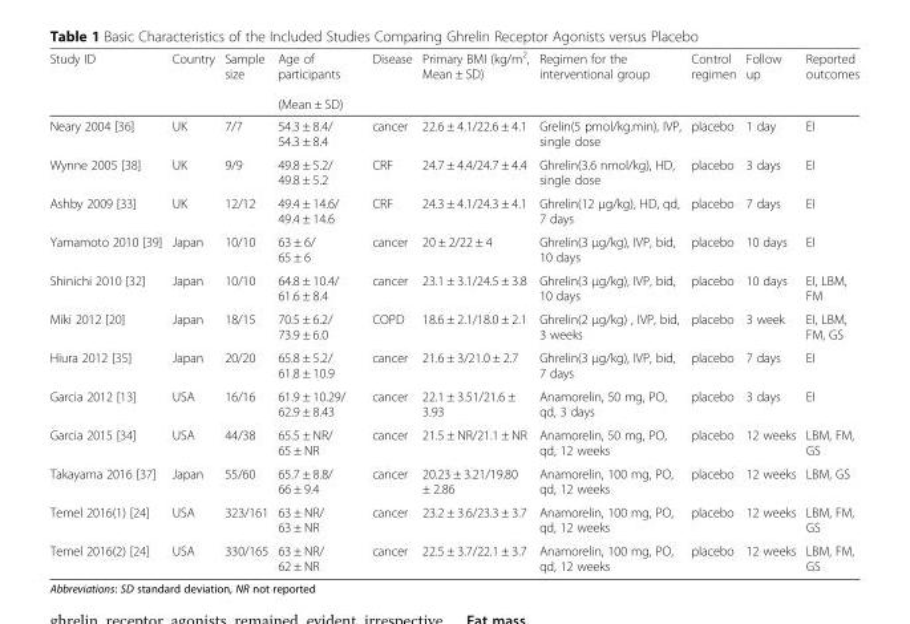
<table><thead><tr><td>Study ID</td><td>Country</td><td>Sample size</td><td>Age of participants (Mean ± SD)</td><td>Disease</td><td>Primary BMI (kg/m<sup>2</sup>, Mean ± SD)</td><td>Regimen for the interventional group</td><td>Control regimen</td><td>Follow up</td><td>Reported outcomes</td></tr></thead><tbody><tr><td>Neary 2004 [36]</td><td>UK</td><td>7/7</td><td>54.3 ± 8.4/ 54.3 ± 8.4</td><td>cancer</td><td>22.6 ± 4.1/22.6 ± 4.1</td><td>Grelin(5 pmol/kg.min), IVP, single dose</td><td>placebo</td><td>1 day</td><td>EI</td></tr><tr><td>Wynne 2005 [38]</td><td>UK</td><td>9/9</td><td>49.8 ± 5.2/ 49.8 ± 5.2</td><td>CRF</td><td>24.7 ± 4.4/24.7 ± 4.4</td><td>Ghrelin(3.6 nmol/kg), HD, single dose</td><td>placebo</td><td>3 days</td><td>EI</td></tr><tr><td>Ashby 2009 [33]</td><td>UK</td><td>12/12</td><td>49.4 ± 14.6/ 49.4 ± 14.6</td><td>CRF</td><td>24.3 ± 4.1/24.3 ± 4.1</td><td>Ghrelin(12 μg/kg), HD, qd, 7 days</td><td>placebo</td><td>7 days</td><td>EI</td></tr><tr><td>Yamamoto 2010 [39]</td><td>Japan</td><td>10/10</td><td>63 ± 6/ 65 ± 6</td><td>cancer</td><td>20 ± 2/22 ± 4</td><td>Ghrelin(3 μg/kg), IVP, bid, 10 days</td><td>placebo</td><td>10 days</td><td>EI</td></tr><tr><td>Shinichi 2010 [32]</td><td>Japan</td><td>10/10</td><td>64.8 ± 10.4/ 61.6 ± 8.4</td><td>cancer</td><td>23.1 ± 3.1/24.5 ± 3.8</td><td>Ghrelin(3 μg/kg), IVP, bid, 10 days</td><td>placebo</td><td>10 days</td><td>EI, LBM, FM</td></tr><tr><td>Miki 2012 [20]</td><td>Japan</td><td>18/15</td><td>70.5 ± 6.2/ 73.9 ± 6.0</td><td>COPD</td><td>18.6 ± 2.1/18.0 ± 2.1</td><td>Ghrelin(2 μg/kg) , IVP, bid, 3 weeks</td><td>placebo</td><td>3 week</td><td>EI, LBM, FM, GS</td></tr><tr><td>Hiura 2012 [35]</td><td>Japan</td><td>20/20</td><td>65.8 ± 5.2/ 61.8 ± 10.9</td><td>cancer</td><td>21.6 ± 3/21.0 ± 2.7</td><td>Ghrelin(3 μg/kg), IVP, bid, 7 days</td><td>placebo</td><td>7 days</td><td>EI</td></tr><tr><td>Garcia 2012 [13]</td><td>USA</td><td>16/16</td><td>61.9 ± 10.29/ 62.9 ± 8.43</td><td>cancer</td><td>22.1 ± 3.51/21.6 ± 3.93</td><td>Anamorelin, 50 mg, PO, qd, 3 days</td><td>placebo</td><td>3 days</td><td>EI</td></tr><tr><td>Garcia 2015 [34]</td><td>USA</td><td>44/38</td><td>65.5 ± NR/ 65 ± NR</td><td>cancer</td><td>21.5 ± NR/21.1 ± NR</td><td>Anamorelin, 50 mg, PO, qd, 12 weeks</td><td>placebo</td><td>12 weeks</td><td>LBM, FM, GS</td></tr><tr><td>Takayama 2016 [37]</td><td>Japan</td><td>55/60</td><td>65.7 ± 8.8/ 66 ± 9.4</td><td>cancer</td><td>20.23 ± 3.21/19.80 ± 2.86</td><td>Anamorelin, 100 mg, PO, qd, 12 weeks</td><td>placebo</td><td>12 weeks</td><td>LBM, GS</td></tr><tr><td>Temel 2016(1) [24]</td><td>USA</td><td>323/161</td><td>63 ± NR/ 63 ± NR</td><td>cancer</td><td>23.2 ± 3.6/23.3 ± 3.7</td><td>Anamorelin, 100 mg, PO, qd, 12 weeks</td><td>placebo</td><td>12 weeks</td><td>LBM, FM, GS</td></tr><tr><td>Temel 2016(2) [24]</td><td>USA</td><td>330/165</td><td>63 ± NR/ 62 ± NR</td><td>cancer</td><td>22.5 ± 3.7/22.1 ± 3.7</td><td>Anamorelin, 100 mg, PO, qd, 12 weeks</td><td>placebo</td><td>12 weeks</td><td>LBM, FM, GS</td></tr></tbody></table>